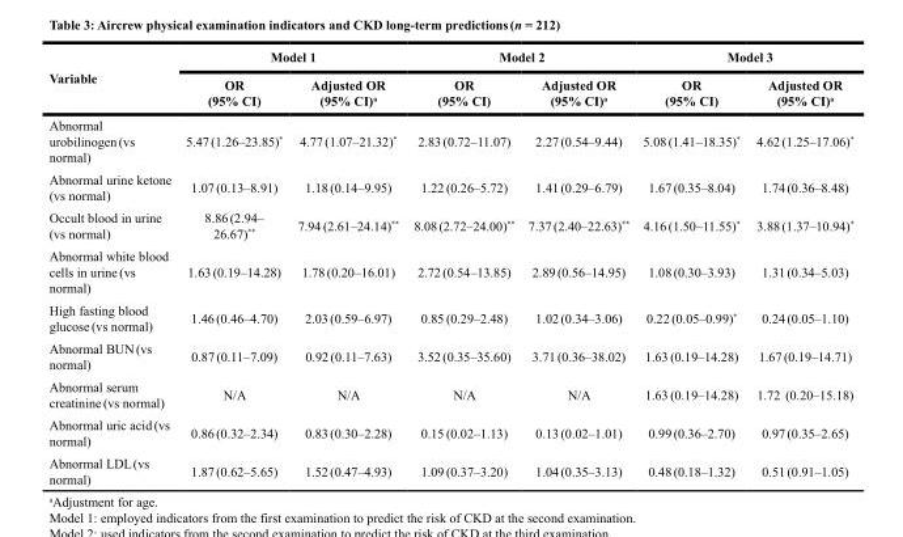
<table><thead><tr><td rowspan="2">Variable</td><td colspan="2">Model 1</td><td colspan="2">Model 2</td><td colspan="2">Model 3</td></tr><tr><td>OR (95% CI)</td><td>Adjusted OR (95% CI)a</td><td>OR (95% CI)</td><td>Adjusted OR (95% CI)a</td><td>OR (95% CI)</td><td>Adjusted OR (95% CI)a</td></tr></thead><tbody><tr><td>Abnormal urobilinogen (vs normal)</td><td>5.47 (1.26–23.85)*</td><td>4.77 (1.07–21.32)*</td><td>2.83 (0.72–11.07)</td><td>2.27 (0.54–9.44)</td><td>5.08 (1.41–18.35)*</td><td>4.62 (1.25–17.06)*</td></tr><tr><td>Abnormal urine ketone (vs normal)</td><td>1.07 (0.13–8.91)</td><td>1.18 (0.14–9.95)</td><td>1.22 (0.26–5.72)</td><td>1.41 (0.29–6.79)</td><td>1.67 (0.35–8.04)</td><td>1.74 (0.36–8.48)</td></tr><tr><td>Occult blood in urine (vs normal)</td><td>8.86 (2.94– 26.67)**</td><td>7.94 (2.61–24.14)**</td><td>8.08 (2.72–24.00)**</td><td>7.37 (2.40–22.63)**</td><td>4.16 (1.50–11.55)*</td><td>3.88 (1.37–10.94)*</td></tr><tr><td>Abnormal white blood cells in urine (vs normal)</td><td>1.63 (0.19–14.28)</td><td>1.78 (0.20–16.01)</td><td>2.72 (0.54–13.85)</td><td>2.89 (0.56–14.95)</td><td>1.08 (0.30–3.93)</td><td>1.31 (0.34–5.03)</td></tr><tr><td>High fasting blood glucose (vs normal)</td><td>1.46 (0.46–4.70)</td><td>2.03 (0.59–6.97)</td><td>0.85 (0.29–2.48)</td><td>1.02 (0.34–3.06)</td><td>0.22 (0.05–0.99)*</td><td>0.24 (0.05–1.10)</td></tr><tr><td>Abnormal BUN (vs normal)</td><td>0.87 (0.11–7.09)</td><td>0.92 (0.11–7.63)</td><td>3.52 (0.35–35.60)</td><td>3.71 (0.36–38.02)</td><td>1.63 (0.19–14.28)</td><td>1.67 (0.19–14.71)</td></tr><tr><td>Abnormal serum creatinine (vs normal)</td><td>N/A</td><td>N/A</td><td>N/A</td><td>N/A</td><td>1.63 (0.19–14.28)</td><td>1.72 (0.20–15.18)</td></tr><tr><td>Abnormal uric acid (vs normal)</td><td>0.86 (0.32–2.34)</td><td>0.83 (0.30–2.28)</td><td>0.15 (0.02–1.13)</td><td>0.13 (0.02–1.01)</td><td>0.99 (0.36–2.70)</td><td>0.97 (0.35–2.65)</td></tr><tr><td>Abnormal LDL (vs normal)</td><td>1.87 (0.62–5.65)</td><td>1.52 (0.47–4.93)</td><td>1.09 (0.37–3.20)</td><td>1.04 (0.35–3.13)</td><td>0.48 (0.18–1.32)</td><td>0.51 (0.91–1.05)</td></tr></tbody></table>